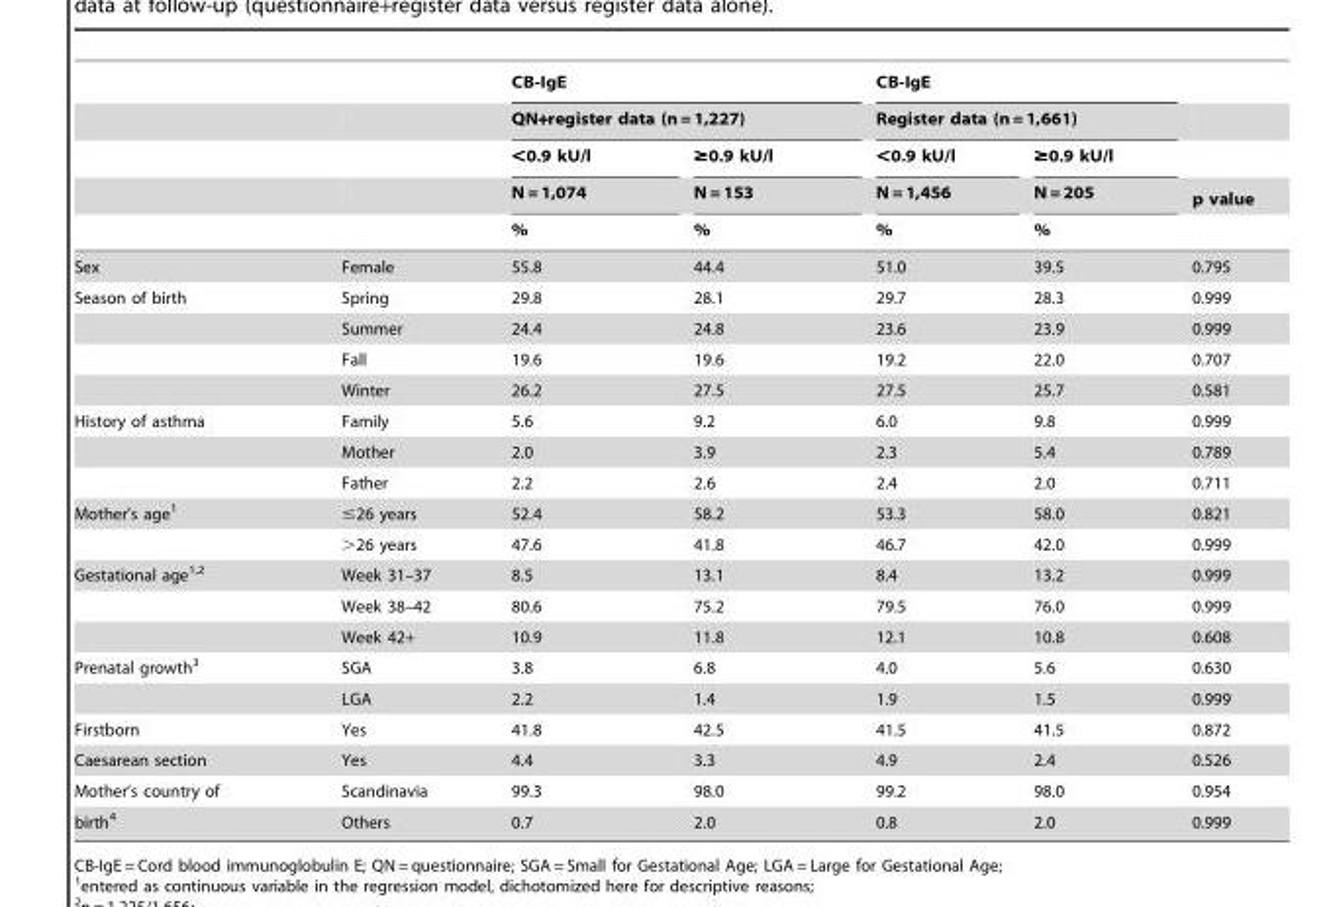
<table><thead><tr><td rowspan="5"></td><td rowspan="5"></td><td rowspan="2" colspan="2">CB-IgE QN+register data (n = 1,227)</td><td rowspan="2" colspan="2">CB-IgE Register data (n = 1,661)</td><td rowspan="5">p value</td></tr><tr></tr><tr><td rowspan="3">&lt;0.9 kU/l N = 1,074 %</td><td rowspan="3">≥0.9 kU/l N = 153 %</td><td rowspan="3">&lt;0.9 kU/l N = 1,456 %</td><td rowspan="3">≥0.9 kU/l N = 205 %</td></tr><tr></tr><tr></tr></thead><tbody><tr><td>Sex</td><td>Female</td><td>55.8</td><td>44.4</td><td>51.0</td><td>39.5</td><td>0.795</td></tr><tr><td rowspan="4">Season of birth</td><td>Spring</td><td>29.8</td><td>28.1</td><td>29.7</td><td>28.3</td><td>0.999</td></tr><tr><td>Summer</td><td>24.4</td><td>24.8</td><td>23.6</td><td>23.9</td><td>0.999</td></tr><tr><td>Fall</td><td>19.6</td><td>19.6</td><td>19.2</td><td>22.0</td><td>0.707</td></tr><tr><td>Winter</td><td>26.2</td><td>27.5</td><td>27.5</td><td>25.7</td><td>0.581</td></tr><tr><td rowspan="3">History of asthma</td><td>Family</td><td>5.6</td><td>9.2</td><td>6.0</td><td>9.8</td><td>0.999</td></tr><tr><td>Mother</td><td>2.0</td><td>3.9</td><td>2.3</td><td>5.4</td><td>0.789</td></tr><tr><td>Father</td><td>2.2</td><td>2.6</td><td>2.4</td><td>2.0</td><td>0.711</td></tr><tr><td rowspan="2">Mother’s age<sup>1</sup></td><td>≤26 years</td><td>52.4</td><td>58.2</td><td>53.3</td><td>58.0</td><td>0.821</td></tr><tr><td>&gt;26 years</td><td>47.6</td><td>41.8</td><td>46.7</td><td>42.0</td><td>0.999</td></tr><tr><td rowspan="3">Gestational age<sup>1,2</sup></td><td>Week 31–37</td><td>8.5</td><td>13.1</td><td>8.4</td><td>13.2</td><td>0.999</td></tr><tr><td>Week 38–42</td><td>80.6</td><td>75.2</td><td>79.5</td><td>76.0</td><td>0.999</td></tr><tr><td>Week 42+</td><td>10.9</td><td>11.8</td><td>12.1</td><td>10.8</td><td>0.608</td></tr><tr><td rowspan="2">Prenatal growth<sup>3</sup></td><td>SGA</td><td>3.8</td><td>6.8</td><td>4.0</td><td>5.6</td><td>0.630</td></tr><tr><td>LGA</td><td>2.2</td><td>1.4</td><td>1.9</td><td>1.5</td><td>0.999</td></tr><tr><td>Firstborn</td><td>Yes</td><td>41.8</td><td>42.5</td><td>41.5</td><td>41.5</td><td>0.872</td></tr><tr><td>Caesarean section</td><td>Yes</td><td>4.4</td><td>3.3</td><td>4.9</td><td>2.4</td><td>0.526</td></tr><tr><td>Mother’s country of</td><td>Scandinavia</td><td>99.3</td><td>98.0</td><td>99.2</td><td>98.0</td><td>0.954</td></tr><tr><td>birth<sup>4</sup></td><td>Others</td><td>0.7</td><td>2.0</td><td>0.8</td><td>2.0</td><td>0.999</td></tr></tbody></table>